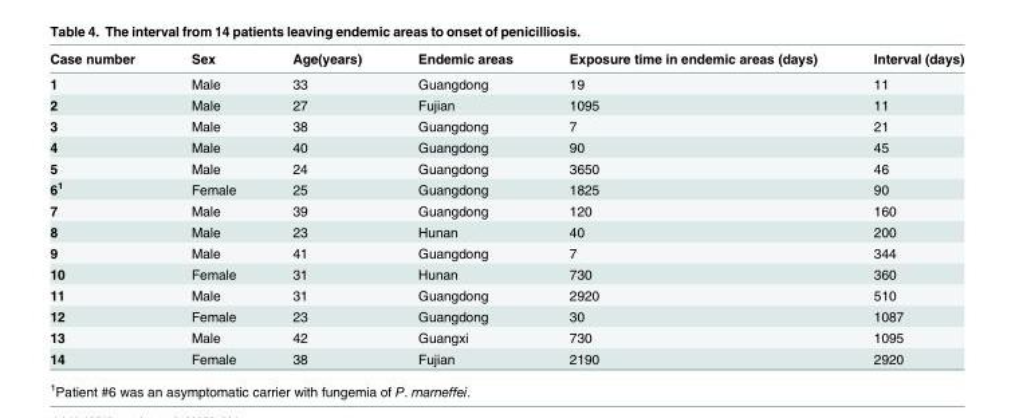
<table><thead><tr><td>Case number</td><td>Sex</td><td>Age(years)</td><td>Endemic areas</td><td>Exposure time in endemic areas (days)</td><td>Interval (days)</td></tr></thead><tbody><tr><td>1</td><td>Male</td><td>33</td><td>Guangdong</td><td>19</td><td>11</td></tr><tr><td>2</td><td>Male</td><td>27</td><td>Fujian</td><td>1095</td><td>11</td></tr><tr><td>3</td><td>Male</td><td>38</td><td>Guangdong</td><td>7</td><td>21</td></tr><tr><td>4</td><td>Male</td><td>40</td><td>Guangdong</td><td>90</td><td>45</td></tr><tr><td>5</td><td>Male</td><td>24</td><td>Guangdong</td><td>3650</td><td>46</td></tr><tr><td>6<sup>1</sup></td><td>Female</td><td>25</td><td>Guangdong</td><td>1825</td><td>90</td></tr><tr><td>7</td><td>Male</td><td>39</td><td>Guangdong</td><td>120</td><td>160</td></tr><tr><td>8</td><td>Male</td><td>23</td><td>Hunan</td><td>40</td><td>200</td></tr><tr><td>9</td><td>Male</td><td>41</td><td>Guangdong</td><td>7</td><td>344</td></tr><tr><td>10</td><td>Female</td><td>31</td><td>Hunan</td><td>730</td><td>360</td></tr><tr><td>11</td><td>Male</td><td>31</td><td>Guangdong</td><td>2920</td><td>510</td></tr><tr><td>12</td><td>Female</td><td>23</td><td>Guangdong</td><td>30</td><td>1087</td></tr><tr><td>13</td><td>Male</td><td>42</td><td>Guangxi</td><td>730</td><td>1095</td></tr><tr><td>14</td><td>Female</td><td>38</td><td>Fujian</td><td>2190</td><td>2920</td></tr></tbody></table>